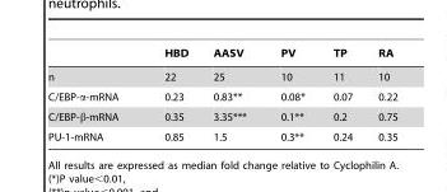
<table><thead><tr><td></td><td>HBD</td><td>AASV</td><td>PV</td><td>TP</td><td>RA</td></tr></thead><tbody><tr><td>n</td><td>22</td><td>25</td><td>10</td><td>11</td><td>10</td></tr><tr><td>C/EBP-α-mRNA</td><td>0.23</td><td>0.83**</td><td>0.08*</td><td>0.07</td><td>0.22</td></tr><tr><td>C/EBP-β-mRNA</td><td>0.35</td><td>3.35***</td><td>0.1**</td><td>0.2</td><td>0.75</td></tr><tr><td>PU-1-mRNA</td><td>0.85</td><td>1.5</td><td>0.3**</td><td>0.24</td><td>0.35</td></tr></tbody></table>